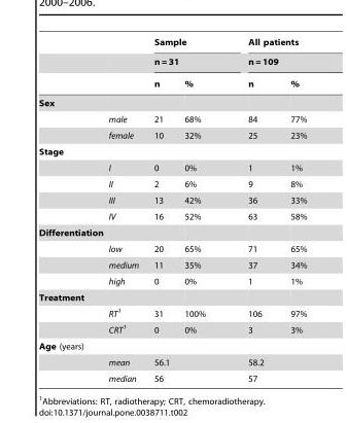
<table><thead><tr><td rowspan="3"></td><td rowspan="3"></td><td rowspan="2" colspan="2">Sample n = 31</td><td rowspan="2" colspan="2">All patients n = 109</td></tr><tr></tr><tr><td>n</td><td>%</td><td>n</td><td>%</td></tr></thead><tbody><tr><td colspan="6">Sex</td></tr><tr><td></td><td>male</td><td>21</td><td>68%</td><td>84</td><td>77%</td></tr><tr><td></td><td>female</td><td>10</td><td>32%</td><td>25</td><td>23%</td></tr><tr><td colspan="6">Stage</td></tr><tr><td></td><td>I</td><td>0</td><td>0%</td><td>1</td><td>1%</td></tr><tr><td></td><td>II</td><td>2</td><td>6%</td><td>9</td><td>8%</td></tr><tr><td></td><td>III</td><td>13</td><td>42%</td><td>36</td><td>33%</td></tr><tr><td></td><td>IV</td><td>16</td><td>52%</td><td>63</td><td>58%</td></tr><tr><td colspan="6">Differentiation</td></tr><tr><td></td><td>low</td><td>20</td><td>65%</td><td>71</td><td>65%</td></tr><tr><td></td><td>medium</td><td>11</td><td>35%</td><td>37</td><td>34%</td></tr><tr><td></td><td>high</td><td>0</td><td>0%</td><td>1</td><td>1%</td></tr><tr><td colspan="6">Treatment</td></tr><tr><td></td><td>RT1</td><td>31</td><td>100%</td><td>106</td><td>97%</td></tr><tr><td></td><td>CRT1</td><td>0</td><td>0%</td><td>3</td><td>3%</td></tr><tr><td colspan="6">Age (years)</td></tr><tr><td></td><td>mean</td><td colspan="2">56.1</td><td colspan="2">58.2</td></tr><tr><td></td><td>median</td><td colspan="2">56</td><td colspan="2">57</td></tr></tbody></table>